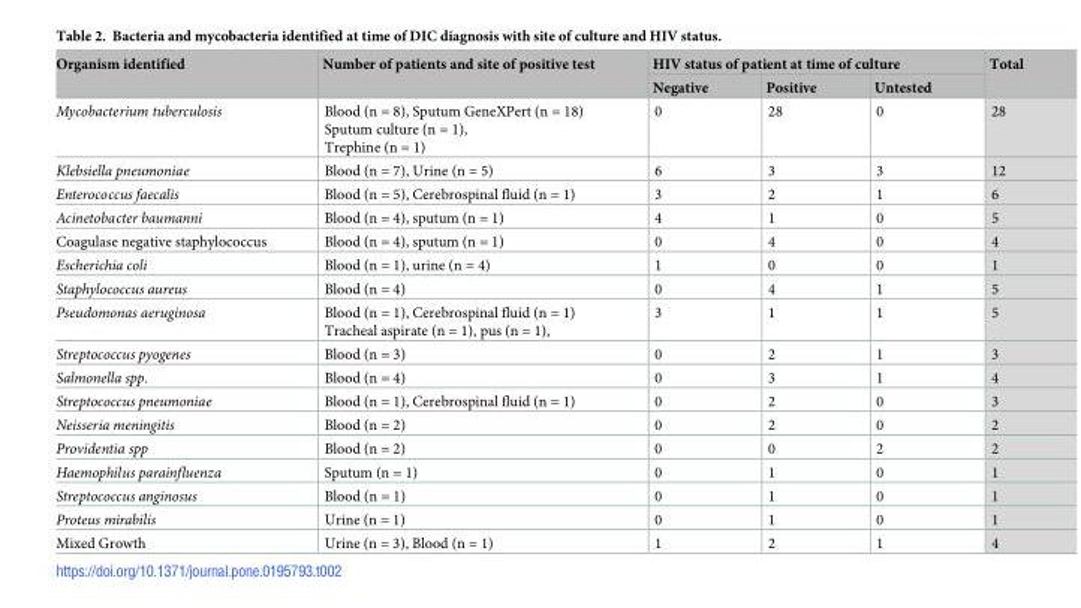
<table><thead><tr><td rowspan="2">Organism identified</td><td rowspan="2">Number of patients and site of positive test</td><td colspan="3">HIV status of patient at time of culture</td><td rowspan="2">Total</td></tr><tr><td>Negative</td><td>Positive</td><td>Untested</td></tr></thead><tbody><tr><td>Mycobacterium tuberculosis</td><td>Blood (n = 8), Sputum GeneXPert (n = 18) Sputum culture (n = 1), Trephine (n = 1)</td><td>0</td><td>28</td><td>0</td><td>28</td></tr><tr><td>Klebsiella pneumoniae</td><td>Blood (n = 7), Urine (n = 5)</td><td>6</td><td>3</td><td>3</td><td>12</td></tr><tr><td>Enterococcus faecalis</td><td>Blood (n = 5), Cerebrospinal fluid (n = 1)</td><td>3</td><td>2</td><td>1</td><td>6</td></tr><tr><td>Acinetobacter baumanni</td><td>Blood (n = 4), sputum (n = 1)</td><td>4</td><td>1</td><td>0</td><td>5</td></tr><tr><td>Coagulase negative staphylococcus</td><td>Blood (n = 4), sputum (n = 1)</td><td>0</td><td>4</td><td>0</td><td>4</td></tr><tr><td>Escherichia coli</td><td>Blood (n = 1), urine (n = 4)</td><td>1</td><td>0</td><td>0</td><td>1</td></tr><tr><td>Staphylococcus aureus</td><td>Blood (n = 4)</td><td>0</td><td>4</td><td>1</td><td>5</td></tr><tr><td>Pseudomonas aeruginosa</td><td>Blood (n = 1), Cerebrospinal fluid (n = 1) Tracheal aspirate (n = 1), pus (n = 1),</td><td>3</td><td>1</td><td>1</td><td>5</td></tr><tr><td>Streptococcus pyogenes</td><td>Blood (n = 3)</td><td>0</td><td>2</td><td>1</td><td>3</td></tr><tr><td>Salmonella spp.</td><td>Blood (n = 4)</td><td>0</td><td>3</td><td>1</td><td>4</td></tr><tr><td>Streptococcus pneumoniae</td><td>Blood (n = 1), Cerebrospinal fluid (n = 1)</td><td>0</td><td>2</td><td>0</td><td>3</td></tr><tr><td>Neisseria meningitis</td><td>Blood (n = 2)</td><td>0</td><td>2</td><td>0</td><td>2</td></tr><tr><td>Providentia spp</td><td>Blood (n = 2)</td><td>0</td><td>0</td><td>2</td><td>2</td></tr><tr><td>Haemophilus parainfluenza</td><td>Sputum (n = 1)</td><td>0</td><td>1</td><td>0</td><td>1</td></tr><tr><td>Streptococcus anginosus</td><td>Blood (n = 1)</td><td>0</td><td>1</td><td>0</td><td>1</td></tr><tr><td>Proteus mirabilis</td><td>Urine (n = 1)</td><td>0</td><td>1</td><td>0</td><td>1</td></tr><tr><td>Mixed Growth</td><td>Urine (n = 3), Blood (n = 1)</td><td>1</td><td>2</td><td>1</td><td>4</td></tr></tbody></table>